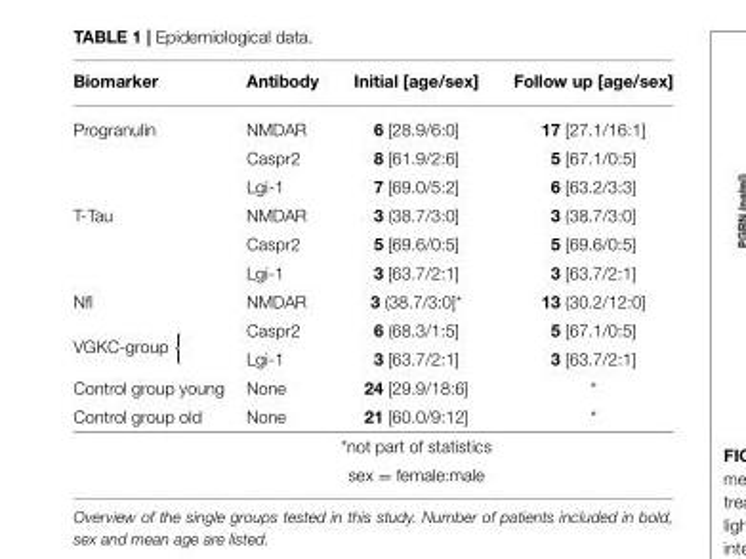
<table><thead><tr><td>Biomarker</td><td>Antibody</td><td>Initial [age/sex]</td><td>Follow up [age/sex]</td></tr></thead><tbody><tr><td rowspan="3">Progranulin</td><td>NMDAR</td><td>6 [28.9/6:0]</td><td>17 [27.1/16:1]</td></tr><tr><td>Caspr2</td><td>8 [61.9/2:6]</td><td>5 [67.1/0:5]</td></tr><tr><td>Lgi-1</td><td>7 [69.0/5:2]</td><td>6 [63.2/3:3]</td></tr><tr><td rowspan="3">T-Tau</td><td>NMDAR</td><td>3 (38.7/3:0]</td><td>3 (38.7/3:0]</td></tr><tr><td>Caspr2</td><td>5 [69.6/0:5]</td><td>5 [69.6/0:5]</td></tr><tr><td>Lgi-1</td><td>3 [63.7/2:1]</td><td>3 [63.7/2:1]</td></tr><tr><td>Nfl</td><td>NMDAR</td><td>3 (38.7/3:0]*</td><td>13 (30.2/12:0]</td></tr><tr><td rowspan="2">VGKC-group {</td><td>Caspr2</td><td>6 (68.3/1:5]</td><td>5 [67.1/0:5]</td></tr><tr><td>Lgi-1</td><td>3 [63.7/2:1]</td><td>3 [63.7/2:1]</td></tr><tr><td>Control group young</td><td>None</td><td>24 [29.9/18:6]</td><td>*</td></tr><tr><td rowspan="3">Control group old</td><td>None</td><td>21 [60.0/9:12]</td><td>*</td></tr><tr><td></td><td>*not part of statistics</td><td></td></tr><tr><td></td><td>sex = female:male</td><td></td></tr></tbody></table>